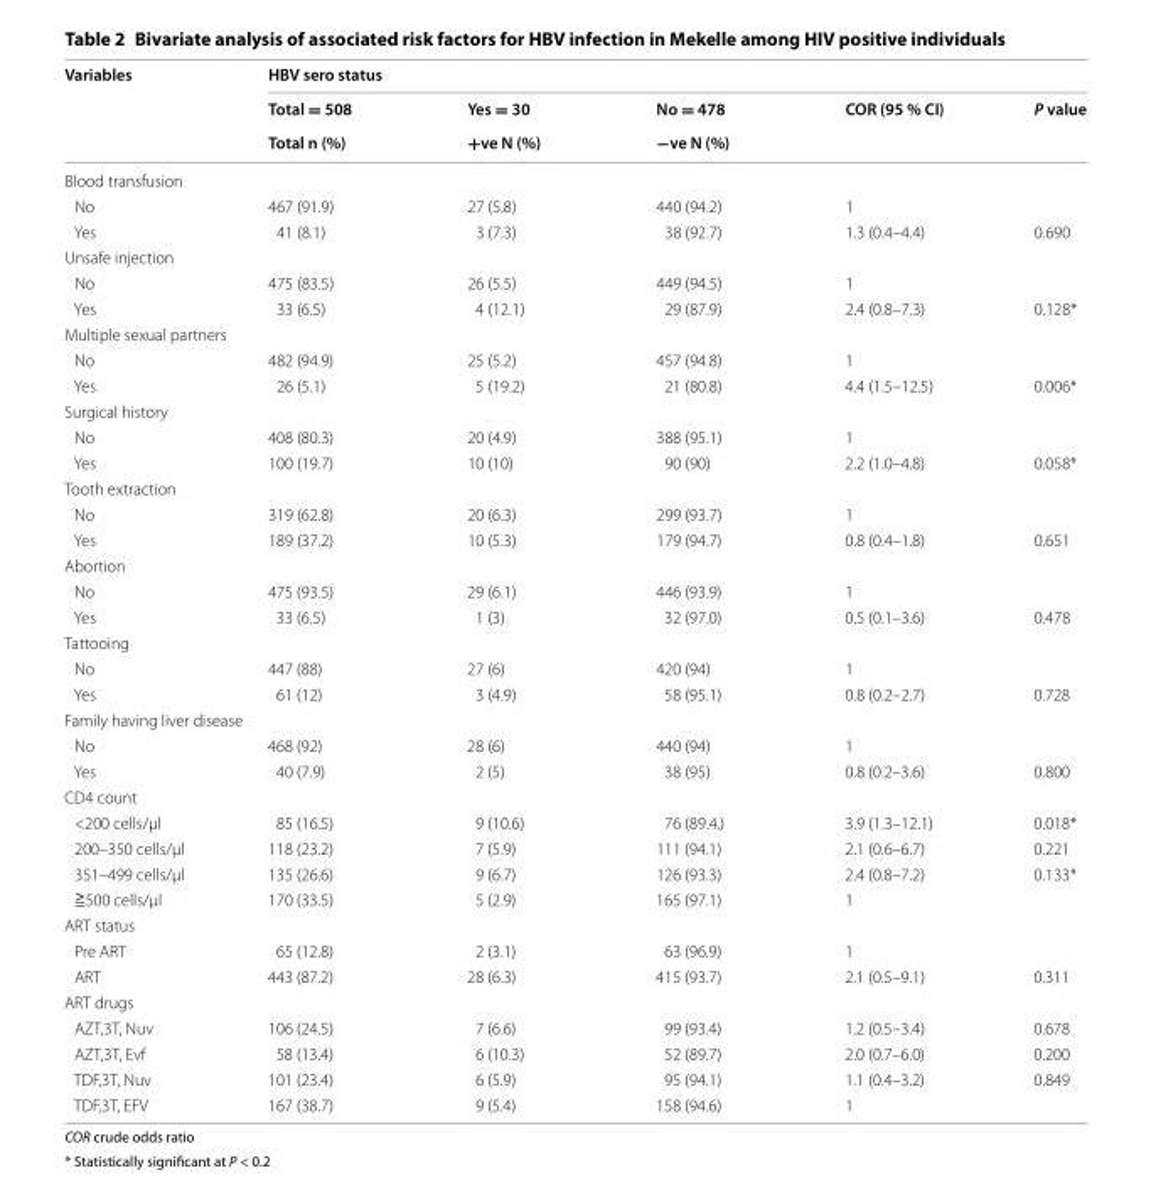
<table><thead><tr><td rowspan="3">Variables</td><td colspan="5">HBV sero status</td></tr><tr><td rowspan="2">Total = 508 Total n (%)</td><td rowspan="2">Yes = 30 +ve N (%)</td><td rowspan="2">No = 478 −ve N (%)</td><td rowspan="2">COR (95 % CI)</td><td rowspan="2">P value</td></tr><tr></tr></thead><tbody><tr><td colspan="6">Blood transfusion</td></tr><tr><td>No</td><td>467 (91.9)</td><td>27 (5.8)</td><td>440 (94.2)</td><td>1</td><td></td></tr><tr><td>Yes</td><td>41 (8.1)</td><td>3 (7.3)</td><td>38 (92.7)</td><td>1.3 (0.4–4.4)</td><td>0.690</td></tr><tr><td colspan="6">Unsafe injection</td></tr><tr><td>No</td><td>475 (83.5)</td><td>26 (5.5)</td><td>449 (94.5)</td><td>1</td><td></td></tr><tr><td>Yes</td><td>33 (6.5)</td><td>4 (12.1)</td><td>29 (87.9)</td><td>2.4 (0.8–7.3)</td><td>0.128*</td></tr><tr><td colspan="6">Multiple sexual partners</td></tr><tr><td>No</td><td>482 (94.9)</td><td>25 (5.2)</td><td>457 (94.8)</td><td>1</td><td></td></tr><tr><td>Yes</td><td>26 (5.1)</td><td>5 (19.2)</td><td>21 (80.8)</td><td>4.4 (1.5–12.5)</td><td>0.006*</td></tr><tr><td colspan="6">Surgical history</td></tr><tr><td>No</td><td>408 (80.3)</td><td>20 (4.9)</td><td>388 (95.1)</td><td>1</td><td></td></tr><tr><td>Yes</td><td>100 (19.7)</td><td>10 (10)</td><td>90 (90)</td><td>2.2 (1.0–4.8)</td><td>0.058*</td></tr><tr><td colspan="6">Tooth extraction</td></tr><tr><td>No</td><td>319 (62.8)</td><td>20 (6.3)</td><td>299 (93.7)</td><td>1</td><td></td></tr><tr><td>Yes</td><td>189 (37.2)</td><td>10 (5.3)</td><td>179 (94.7)</td><td>0.8 (0.4–1.8)</td><td>0.651</td></tr><tr><td colspan="6">Abortion</td></tr><tr><td>No</td><td>475 (93.5)</td><td>29 (6.1)</td><td>446 (93.9)</td><td>1</td><td></td></tr><tr><td>Yes</td><td>33 (6.5)</td><td>1 (3)</td><td>32 (97.0)</td><td>0.5 (0.1–3.6)</td><td>0.478</td></tr><tr><td colspan="6">Tattooing</td></tr><tr><td>No</td><td>447 (88)</td><td>27 (6)</td><td>420 (94)</td><td>1</td><td></td></tr><tr><td>Yes</td><td>61 (12)</td><td>3 (4.9)</td><td>58 (95.1)</td><td>0.8 (0.2–2.7)</td><td>0.728</td></tr><tr><td colspan="6">Family having liver disease</td></tr><tr><td>No</td><td>468 (92)</td><td>28 (6)</td><td>440 (94)</td><td>1</td><td></td></tr><tr><td>Yes</td><td>40 (7.9)</td><td>2 (5)</td><td>38 (95)</td><td>0.8 (0.2–3.6)</td><td>0.800</td></tr><tr><td colspan="6">CD4 count</td></tr><tr><td>&lt;200 cells/μl</td><td>85 (16.5)</td><td>9 (10.6)</td><td>76 (89.4.)</td><td>3.9 (1.3–12.1)</td><td>0.018*</td></tr><tr><td>200–350 cells/μl</td><td>118 (23.2)</td><td>7 (5.9)</td><td>111 (94.1)</td><td>2.1 (0.6–6.7)</td><td>0.221</td></tr><tr><td>351–499 cells/μl</td><td>135 (26.6)</td><td>9 (6.7)</td><td>126 (93.3)</td><td>2.4 (0.8–7.2)</td><td>0.133*</td></tr><tr><td>≧500 cells/μl</td><td>170 (33.5)</td><td>5 (2.9)</td><td>165 (97.1)</td><td>1</td><td></td></tr><tr><td colspan="6">ART status</td></tr><tr><td>Pre ART</td><td>65 (12.8)</td><td>2 (3.1)</td><td>63 (96.9)</td><td>1</td><td></td></tr><tr><td>ART</td><td>443 (87.2)</td><td>28 (6.3)</td><td>415 (93.7)</td><td>2.1 (0.5–9.1)</td><td>0.311</td></tr><tr><td colspan="6">ART drugs</td></tr><tr><td>AZT,3T, Nuv</td><td>106 (24.5)</td><td>7 (6.6)</td><td>99 (93.4)</td><td>1.2 (0.5–3.4)</td><td>0.678</td></tr><tr><td>AZT,3T, Evf</td><td>58 (13.4)</td><td>6 (10.3)</td><td>52 (89.7)</td><td>2.0 (0.7–6.0)</td><td>0.200</td></tr><tr><td>TDF,3T, Nuv</td><td>101 (23.4)</td><td>6 (5.9)</td><td>95 (94.1)</td><td>1.1 (0.4–3.2)</td><td>0.849</td></tr><tr><td>TDF,3T, EFV</td><td>167 (38.7)</td><td>9 (5.4)</td><td>158 (94.6)</td><td>1</td><td></td></tr></tbody></table>